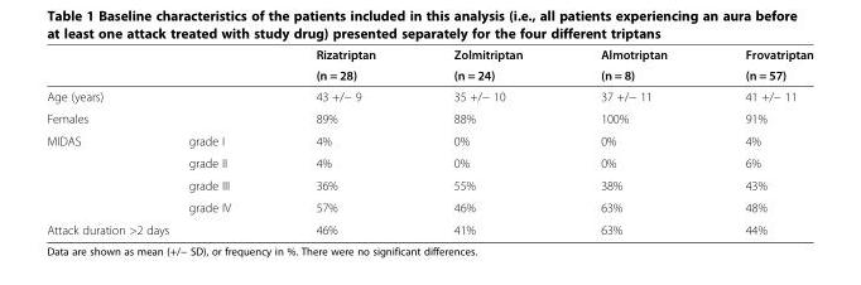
<table><thead><tr><td rowspan="2"></td><td rowspan="2"></td><td rowspan="2">Rizatriptan (n = 28)</td><td rowspan="2">Zolmitriptan (n = 24)</td><td rowspan="2">Almotriptan (n = 8)</td><td rowspan="2">Frovatriptan (n = 57)</td></tr><tr></tr></thead><tbody><tr><td>Age (years)</td><td></td><td>43 +/− 9</td><td>35 +/− 10</td><td>37 +/− 11</td><td>41 +/− 11</td></tr><tr><td>Females</td><td></td><td>89%</td><td>88%</td><td>100%</td><td>91%</td></tr><tr><td rowspan="4">MIDAS</td><td>grade I</td><td>4%</td><td>0%</td><td>0%</td><td>4%</td></tr><tr><td>grade II</td><td>4%</td><td>0%</td><td>0%</td><td>6%</td></tr><tr><td>grade III</td><td>36%</td><td>55%</td><td>38%</td><td>43%</td></tr><tr><td>grade IV</td><td>57%</td><td>46%</td><td>63%</td><td>48%</td></tr><tr><td colspan="2">Attack duration &gt;2 days</td><td>46%</td><td>41%</td><td>63%</td><td>44%</td></tr></tbody></table>